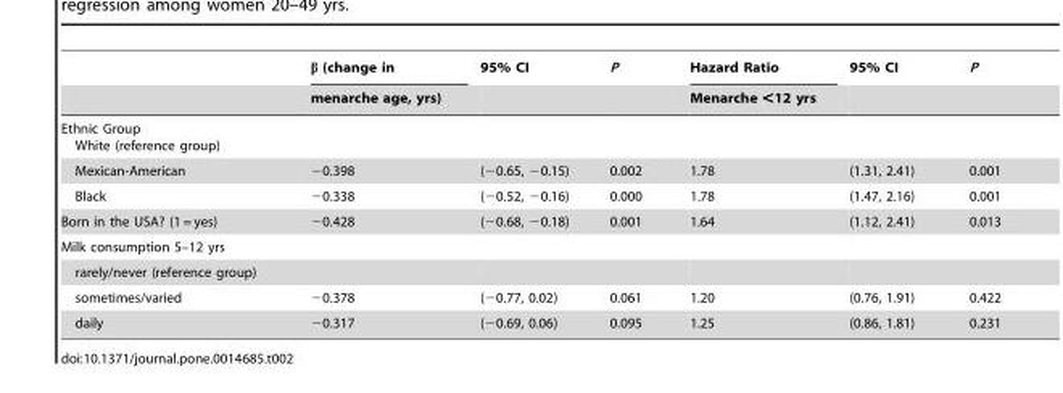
<table><thead><tr><td rowspan="2"></td><td rowspan="2">β (change in menarche age, yrs)</td><td rowspan="2">95% CI</td><td rowspan="2">P</td><td rowspan="2">Hazard Ratio Menarche &lt;12 yrs</td><td rowspan="2">95% CI</td><td rowspan="2">P</td></tr><tr></tr></thead><tbody><tr><td colspan="7">Ethnic Group White (reference group)</td></tr><tr><td>Mexican-American</td><td>−0.398</td><td>(−0.65, −0.15)</td><td>0.002</td><td>1.78</td><td>(1.31, 2.41)</td><td>0.001</td></tr><tr><td>Black</td><td>−0.338</td><td>(−0.52, −0.16)</td><td>0.000</td><td>1.78</td><td>(1.47, 2.16)</td><td>0.001</td></tr><tr><td>Born in the USA? (1 = yes)</td><td>−0.428</td><td>(−0.68, −0.18)</td><td>0.001</td><td>1.64</td><td>(1.12, 2.41)</td><td>0.013</td></tr><tr><td colspan="7">Milk consumption 5–12 yrs</td></tr><tr><td colspan="7">rarely/never (reference group)</td></tr><tr><td>sometimes/varied</td><td>−0.378</td><td>(−0.77, 0.02)</td><td>0.061</td><td>1.20</td><td>(0.76, 1.91)</td><td>0.422</td></tr><tr><td>daily</td><td>−0.317</td><td>(−0.69, 0.06)</td><td>0.095</td><td>1.25</td><td>(0.86, 1.81)</td><td>0.231</td></tr></tbody></table>